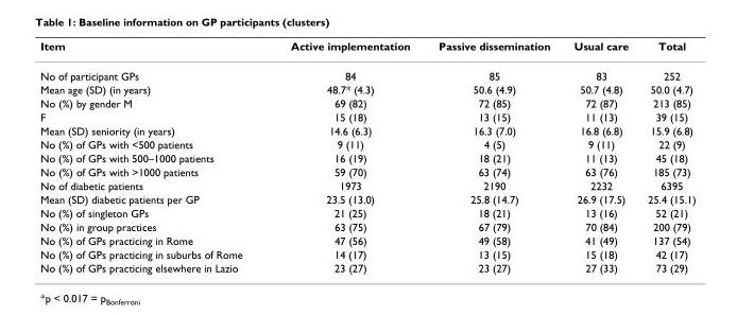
<table><thead><tr><td>Item</td><td>Active implementation</td><td>Passive dissemination</td><td>Usual care</td><td>Total</td></tr></thead><tbody><tr><td>No of participant GPs</td><td>84</td><td>85</td><td>83</td><td>252</td></tr><tr><td>Mean age (SD) (in years)</td><td>48.7* (4.3)</td><td>50.6 (4.9)</td><td>50.7 (4.8)</td><td>50.0 (4.7)</td></tr><tr><td>No (%) by gender M</td><td>69 (82)</td><td>72 (85)</td><td>72 (87)</td><td>213 (85)</td></tr><tr><td>F</td><td>15 (18)</td><td>13 (15)</td><td>11 (13)</td><td>39 (15)</td></tr><tr><td>Mean (SD) seniority (in years)</td><td>14.6 (6.3)</td><td>16.3 (7.0)</td><td>16.8 (6.8)</td><td>15.9 (6.8)</td></tr><tr><td>No (%) of GPs with &lt;500 patients</td><td>9 (11)</td><td>4 (5)</td><td>9 (11)</td><td>22 (9)</td></tr><tr><td>No (%) of GPs with 500–1000 patients</td><td>16 (19)</td><td>18 (21)</td><td>11 (13)</td><td>45 (18)</td></tr><tr><td>No (%) of GPs with &gt;1000 patients</td><td>59 (70)</td><td>63 (74)</td><td>63 (76)</td><td>185 (73)</td></tr><tr><td>No of diabetic patients</td><td>1973</td><td>2190</td><td>2232</td><td>6395</td></tr><tr><td>Mean (SD) diabetic patients per GP</td><td>23.5 (13.0)</td><td>25.8 (14.7)</td><td>26.9 (17.5)</td><td>25.4 (15.1)</td></tr><tr><td>No (%) of singleton GPs</td><td>21 (25)</td><td>18 (21)</td><td>13 (16)</td><td>52 (21)</td></tr><tr><td>No (%) in group practices</td><td>63 (75)</td><td>67 (79)</td><td>70 (84)</td><td>200 (79)</td></tr><tr><td>No (%) of GPs practicing in Rome</td><td>47 (56)</td><td>49 (58)</td><td>41 (49)</td><td>137 (54)</td></tr><tr><td>No (%) of GPs practicing in suburbs of Rome</td><td>14 (17)</td><td>13 (15)</td><td>15 (18)</td><td>42 (17)</td></tr><tr><td>No (%) of GPs practicing elsewhere in Lazio</td><td>23 (27)</td><td>23 (27)</td><td>27 (33)</td><td>73 (29)</td></tr></tbody></table>